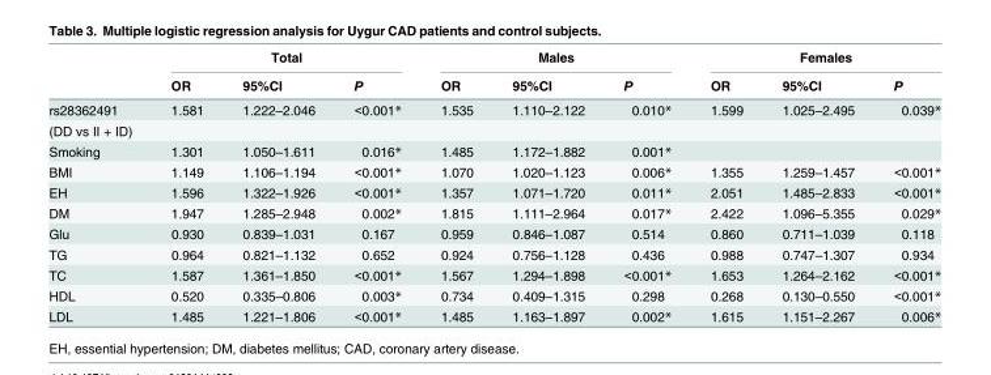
<table><thead><tr><td rowspan="2"></td><td colspan="3">Total</td><td colspan="3">Males</td><td colspan="3">Females</td></tr><tr><td>OR</td><td>95%CI</td><td>P</td><td>OR</td><td>95%CI</td><td>P</td><td>OR</td><td>95%CI</td><td>P</td></tr></thead><tbody><tr><td>rs28362491</td><td>1.581</td><td>1.222–2.046</td><td>&lt;0.001*</td><td>1.535</td><td>1.110–2.122</td><td>0.010*</td><td>1.599</td><td>1.025–2.495</td><td>0.039*</td></tr><tr><td colspan="10">(DD vs II + ID)</td></tr><tr><td>Smoking</td><td>1.301</td><td>1.050–1.611</td><td>0.016*</td><td>1.485</td><td>1.172–1.882</td><td>0.001*</td><td></td><td></td><td></td></tr><tr><td>BMI</td><td>1.149</td><td>1.106–1.194</td><td>&lt;0.001*</td><td>1.070</td><td>1.020–1.123</td><td>0.006*</td><td>1.355</td><td>1.259–1.457</td><td>&lt;0.001*</td></tr><tr><td>EH</td><td>1.596</td><td>1.322–1.926</td><td>&lt;0.001*</td><td>1.357</td><td>1.071–1.720</td><td>0.011*</td><td>2.051</td><td>1.485–2.833</td><td>&lt;0.001*</td></tr><tr><td>DM</td><td>1.947</td><td>1.285–2.948</td><td>0.002*</td><td>1.815</td><td>1.111–2.964</td><td>0.017*</td><td>2.422</td><td>1.096–5.355</td><td>0.029*</td></tr><tr><td>Glu</td><td>0.930</td><td>0.839–1.031</td><td>0.167</td><td>0.959</td><td>0.846–1.087</td><td>0.514</td><td>0.860</td><td>0.711–1.039</td><td>0.118</td></tr><tr><td>TG</td><td>0.964</td><td>0.821–1.132</td><td>0.652</td><td>0.924</td><td>0.756–1.128</td><td>0.436</td><td>0.988</td><td>0.747–1.307</td><td>0.934</td></tr><tr><td>TC</td><td>1.587</td><td>1.361–1.850</td><td>&lt;0.001*</td><td>1.567</td><td>1.294–1.898</td><td>&lt;0.001*</td><td>1.653</td><td>1.264–2.162</td><td>&lt;0.001*</td></tr><tr><td>HDL</td><td>0.520</td><td>0.335–0.806</td><td>0.003*</td><td>0.734</td><td>0.409–1.315</td><td>0.298</td><td>0.268</td><td>0.130–0.550</td><td>&lt;0.001*</td></tr><tr><td>LDL</td><td>1.485</td><td>1.221–1.806</td><td>&lt;0.001*</td><td>1.485</td><td>1.163–1.897</td><td>0.002*</td><td>1.615</td><td>1.151–2.267</td><td>0.006*</td></tr></tbody></table>